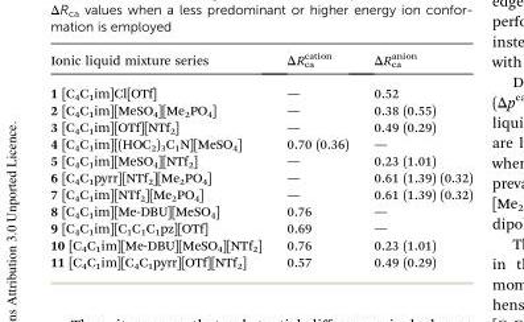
<table><thead><tr><td>Ionic liquid mixture series</td><td>ΔRcation ca</td><td>ΔRanion ca</td></tr></thead><tbody><tr><td>1 [C<sub>4</sub>C<sub>1</sub>im]Cl[OTf]</td><td>—</td><td>0.52</td></tr><tr><td>2 [C<sub>4</sub>C<sub>1</sub>im][MeSO<sub>4</sub>][Me<sub>2</sub>PO<sub>4</sub>]</td><td>—</td><td>0.38 (0.55)</td></tr><tr><td>3 [C<sub>4</sub>C<sub>1</sub>im][OTf][NTf<sub>2</sub>]</td><td>—</td><td>0.49 (0.29)</td></tr><tr><td>4 [C<sub>4</sub>C<sub>1</sub>im][(HOC<sub>2</sub>)<sub>3</sub>C<sub>1</sub>N][MeSO<sub>4</sub>]</td><td>0.70 (0.36)</td><td>—</td></tr><tr><td>5 [C<sub>4</sub>C<sub>1</sub>im][MeSO<sub>4</sub>][NTf<sub>2</sub>]</td><td>—</td><td>0.23 (1.01)</td></tr><tr><td>6 [C<sub>4</sub>C<sub>1</sub>pyrr][NTf<sub>2</sub>][Me<sub>2</sub>PO<sub>4</sub>]</td><td>—</td><td>0.61 (1.39) (0.32)</td></tr><tr><td>7 [C<sub>4</sub>C<sub>1</sub>im][NTf<sub>2</sub>][Me<sub>2</sub>PO<sub>4</sub>]</td><td>—</td><td>0.61 (1.39) (0.32)</td></tr><tr><td>8 [C<sub>4</sub>C<sub>1</sub>im][Me-DBU][MeSO<sub>4</sub>]</td><td>0.76</td><td>—</td></tr><tr><td>9 [C<sub>4</sub>C<sub>1</sub>im][C<sub>1</sub>C<sub>1</sub>C<sub>1</sub>pz][OTf]</td><td>0.69</td><td>—</td></tr><tr><td>10 [C<sub>4</sub>C<sub>1</sub>im][Me-DBU][MeSO<sub>4</sub>][NTf<sub>2</sub>]</td><td>0.76</td><td>0.23 (1.01)</td></tr><tr><td>11 [C<sub>4</sub>C<sub>1</sub>im][C<sub>4</sub>C<sub>1</sub>pyrr][OTf][NTf<sub>2</sub>]</td><td>0.57</td><td>0.49 (0.29)</td></tr></tbody></table>